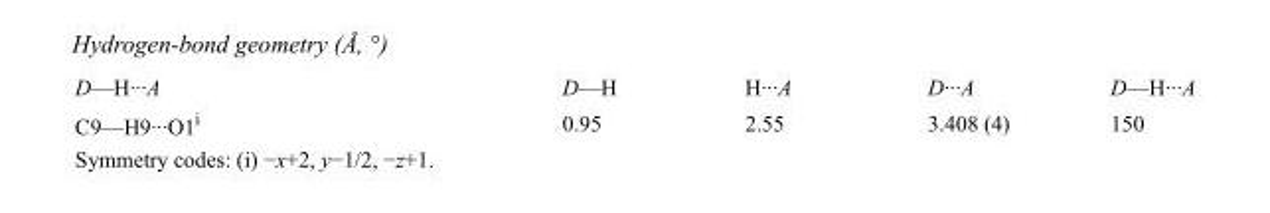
<table><tbody><tr><td>D—H···A</td><td>D—H</td><td>H···A</td><td>D···A</td><td>D—H···A</td></tr><tr><td>C9—H9···O1<sup>i</sup></td><td>0.95</td><td>2.55</td><td>3.408 (4)</td><td>150</td></tr></tbody></table>